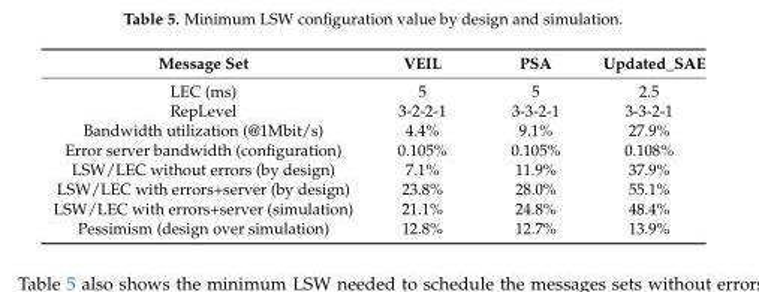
<table><thead><tr><td>Message Set</td><td>VEIL</td><td>PSA</td><td>Updated_SAE</td></tr></thead><tbody><tr><td>LEC (ms)</td><td>5</td><td>5</td><td>2.5</td></tr><tr><td>RepLevel</td><td>3-2-2-1</td><td>3-3-2-1</td><td>3-3-2-1</td></tr><tr><td>Bandwidth utilization (@1Mbit/s)</td><td>4.4%</td><td>9.1%</td><td>27.9%</td></tr><tr><td>Error server bandwidth (configuration)</td><td>0.105%</td><td>0.105%</td><td>0.108%</td></tr><tr><td>LSW/LEC without errors (by design)</td><td>7.1%</td><td>11.9%</td><td>37.9%</td></tr><tr><td>LSW/LEC with errors+server (by design)</td><td>23.8%</td><td>28.0%</td><td>55.1%</td></tr><tr><td>LSW/LEC with errors+server (simulation)</td><td>21.1%</td><td>24.8%</td><td>48.4%</td></tr><tr><td>Pessimism (design over simulation)</td><td>12.8%</td><td>12.7%</td><td>13.9%</td></tr></tbody></table>